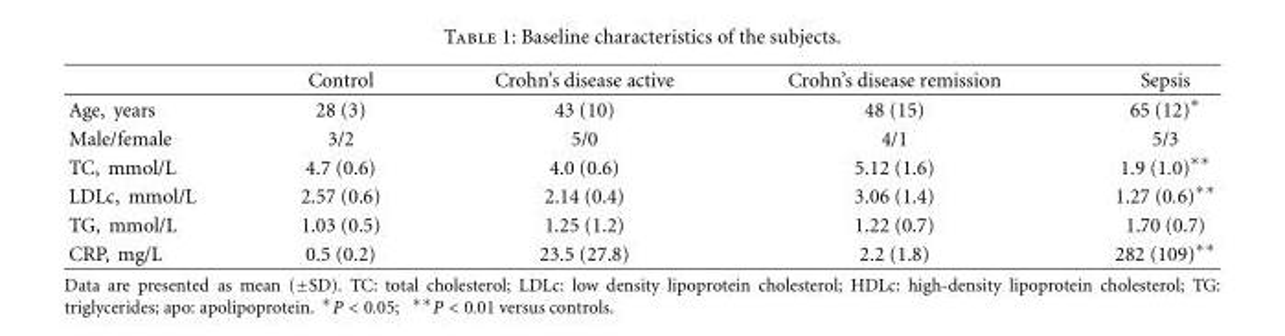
<table><thead><tr><td></td><td>Control</td><td>Crohn’s disease active</td><td>Crohn’s disease remission</td><td>Sepsis</td></tr></thead><tbody><tr><td>Age, years</td><td>28 (3)</td><td>43 (10)</td><td>48 (15)</td><td>65 (12)∗</td></tr><tr><td>Male/female</td><td>3/2</td><td>5/0</td><td>4/1</td><td>5/3</td></tr><tr><td>TC, mmol/L</td><td>4.7 (0.6)</td><td>4.0 (0.6)</td><td>5.12 (1.6)</td><td>1.9 (1.0)∗∗</td></tr><tr><td>LDLc, mmol/L</td><td>2.57 (0.6)</td><td>2.14 (0.4)</td><td>3.06 (1.4)</td><td>1.27 (0.6)∗∗</td></tr><tr><td>TG, mmol/L</td><td>1.03 (0.5)</td><td>1.25 (1.2)</td><td>1.22 (0.7)</td><td>1.70 (0.7)</td></tr><tr><td>CRP, mg/L</td><td>0.5 (0.2)</td><td>23.5 (27.8)</td><td>2.2 (1.8)</td><td>282 (109)∗∗</td></tr></tbody></table>